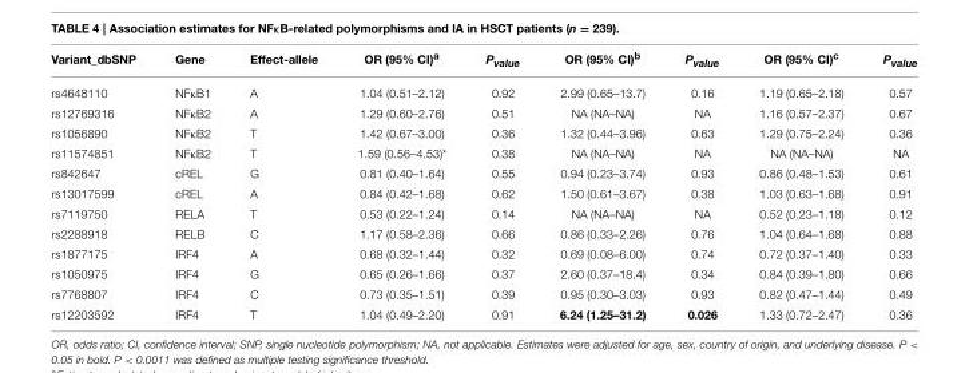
<table><thead><tr><td>Variant_dbSNP</td><td>Gene</td><td>Effect-allele</td><td>OR (95% CI)<sup>a</sup></td><td>P<sub>value</sub></td><td>OR (95% CI)<sup>b</sup></td><td>P<sub>value</sub></td><td>OR (95% CI)<sup>c</sup></td><td>P<sub>value</sub></td></tr></thead><tbody><tr><td>rs4648110</td><td>NFκB1</td><td>A</td><td>1.04 (0.51–2.12)</td><td>0.92</td><td>2.99 (0.65–13.7)</td><td>0.16</td><td>1.19 (0.65–2.18)</td><td>0.57</td></tr><tr><td>rs12769316</td><td>NFκB2</td><td>A</td><td>1.29 (0.60–2.76)</td><td>0.51</td><td>NA (NA–NA)</td><td>NA</td><td>1.16 (0.57–2.37)</td><td>0.67</td></tr><tr><td>rs1056890</td><td>NFκB2</td><td>T</td><td>1.42 (0.67–3.00)</td><td>0.36</td><td>1.32 (0.44–3.96)</td><td>0.63</td><td>1.29 (0.75–2.24)</td><td>0.36</td></tr><tr><td>rs11574851</td><td>NFκB2</td><td>T</td><td>1.59 (0.56–4.53)*</td><td>0.38</td><td>NA (NA–NA)</td><td>NA</td><td>NA (NA–NA)</td><td>NA</td></tr><tr><td>rs842647</td><td>cREL</td><td>G</td><td>0.81 (0.40–1.64)</td><td>0.55</td><td>0.94 (0.23–3.74)</td><td>0.93</td><td>0.86 (0.48–1.53)</td><td>0.61</td></tr><tr><td>rs13017599</td><td>cREL</td><td>A</td><td>0.84 (0.42–1.68)</td><td>0.62</td><td>1.50 (0.61–3.67)</td><td>0.38</td><td>1.03 (0.63–1.68)</td><td>0.91</td></tr><tr><td>rs7119750</td><td>RELA</td><td>T</td><td>0.53 (0.22–1.24)</td><td>0.14</td><td>NA (NA–NA)</td><td>NA</td><td>0.52 (0.23–1.18)</td><td>0.12</td></tr><tr><td>rs2288918</td><td>RELB</td><td>C</td><td>1.17 (0.58–2.36)</td><td>0.66</td><td>0.86 (0.33–2.26)</td><td>0.76</td><td>1.04 (0.64–1.68)</td><td>0.88</td></tr><tr><td>rs1877175</td><td>IRF4</td><td>A</td><td>0.68 (0.32–1.44)</td><td>0.32</td><td>0.69 (0.08–6.00)</td><td>0.74</td><td>0.72 (0.37–1.40)</td><td>0.33</td></tr><tr><td>rs1050975</td><td>IRF4</td><td>G</td><td>0.65 (0.26–1.66)</td><td>0.37</td><td>2.60 (0.37–18.4)</td><td>0.34</td><td>0.84 (0.39–1.80)</td><td>0.66</td></tr><tr><td>rs7768807</td><td>IRF4</td><td>C</td><td>0.73 (0.35–1.51)</td><td>0.39</td><td>0.95 (0.30–3.03)</td><td>0.93</td><td>0.82 (0.47–1.44)</td><td>0.49</td></tr><tr><td>rs12203592</td><td>IRF4</td><td>T</td><td>1.04 (0.49–2.20)</td><td>0.91</td><td>6.24 (1.25–31.2)</td><td>0.026</td><td>1.33 (0.72–2.47)</td><td>0.36</td></tr></tbody></table>